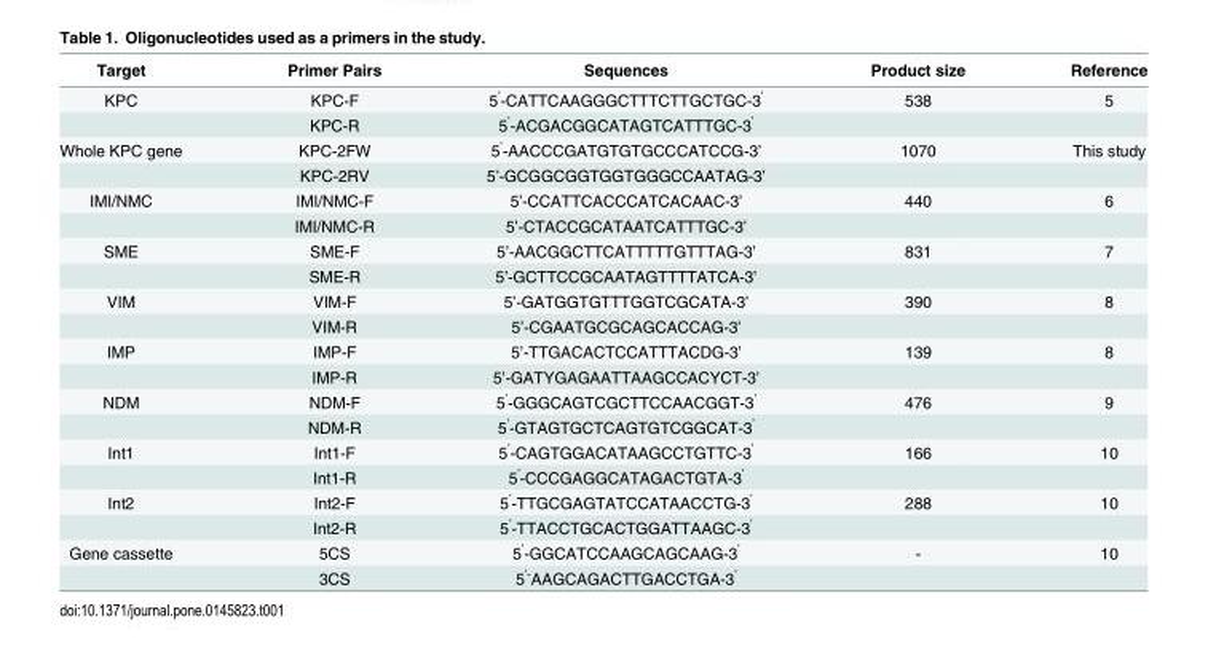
<table><thead><tr><td>Target</td><td>Primer Pairs</td><td>Sequences</td><td>Product size</td><td>Reference</td></tr></thead><tbody><tr><td rowspan="2">KPC</td><td>KPC-F</td><td>5<sup>’</sup>-CATTCAAGGGCTTTCTTGCTGC-3<sup>’</sup></td><td>538</td><td>5</td></tr><tr><td>KPC-R</td><td>5<sup>’</sup>-ACGACGGCATAGTCATTTGC-3<sup>’</sup></td><td></td><td></td></tr><tr><td rowspan="2">Whole KPC gene</td><td>KPC-2FW</td><td>5<sup>’</sup>-AACCCGATGTGTGCCCATCCG-3’</td><td>1070</td><td>This study</td></tr><tr><td>KPC-2RV</td><td>5’-GCGGCGGTGGTGGGCCAATAG-3’</td><td></td><td></td></tr><tr><td rowspan="2">IMI/NMC</td><td>IMI/NMC-F</td><td>5’-CCATTCACCCATCACAAC-3’</td><td>440</td><td>6</td></tr><tr><td>IMI/NMC-R</td><td>5’-CTACCGCATAATCATTTGC-3’</td><td></td><td></td></tr><tr><td rowspan="2">SME</td><td>SME-F</td><td>5’-AACGGCTTCATTTTTGTTTAG-3’</td><td>831</td><td>7</td></tr><tr><td>SME-R</td><td>5’-GCTTCCGCAATAGTTTTATCA-3’</td><td></td><td></td></tr><tr><td rowspan="2">VIM</td><td>VIM-F</td><td>5’-GATGGTGTTTGGTCGCATA-3’</td><td>390</td><td>8</td></tr><tr><td>VIM-R</td><td>5’-CGAATGCGCAGCACCAG-3’</td><td></td><td></td></tr><tr><td rowspan="2">IMP</td><td>IMP-F</td><td>5’-TTGACACTCCATTTACDG-3’</td><td>139</td><td>8</td></tr><tr><td>IMP-R</td><td>5’-GATYGAGAATTAAGCCACYCT-3’</td><td></td><td></td></tr><tr><td rowspan="2">NDM</td><td>NDM-F</td><td>5<sup>’</sup>-GGGCAGTCGCTTCCAACGGT-3<sup>’</sup></td><td>476</td><td>9</td></tr><tr><td>NDM-R</td><td>5<sup>’</sup>-GTAGTGCTCAGTGTCGGCAT-3<sup>’</sup></td><td></td><td></td></tr><tr><td rowspan="2">Int1</td><td>Int1-F</td><td>5<sup>’</sup>-CAGTGGACATAAGCCTGTTC-3<sup>’</sup></td><td>166</td><td>10</td></tr><tr><td>Int1-R</td><td>5<sup>’</sup>-CCCGAGGCATAGACTGTA-3<sup>’</sup></td><td></td><td></td></tr><tr><td rowspan="2">Int2</td><td>Int2-F</td><td>5<sup>’</sup>-TTGCGAGTATCCATAACCTG-3<sup>’</sup></td><td>288</td><td>10</td></tr><tr><td>Int2-R</td><td>5<sup>’</sup>-TTACCTGCACTGGATTAAGC-3<sup>’</sup></td><td></td><td></td></tr><tr><td rowspan="2">Gene cassette</td><td>5CS</td><td>5<sup>’</sup>-GGCATCCAAGCAGCAAG-3<sup>’</sup></td><td>-</td><td>10</td></tr><tr><td>3CS</td><td>5<sup>’-</sup>AAGCAGACTTGACCTGA-3<sup>’</sup></td><td></td><td></td></tr></tbody></table>